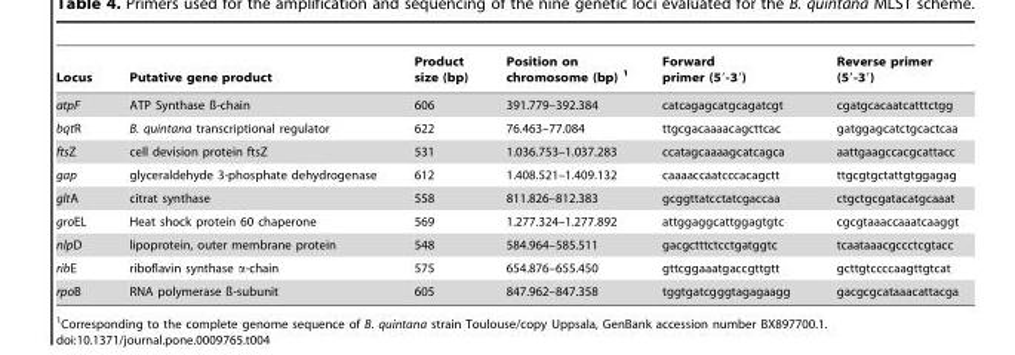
<table><thead><tr><td>Locus</td><td>Putative gene product</td><td>Product size (bp)</td><td>Position on chromosome (bp) 1</td><td>Forward primer (5′-3′)</td><td>Reverse primer (5′-3′)</td></tr></thead><tbody><tr><td>atpF</td><td>ATP Synthase ß-chain</td><td>606</td><td>391.779–392.384</td><td>catcagagcatgcagatcgt</td><td>cgatgcacaatcatttctgg</td></tr><tr><td>bqtR</td><td>B. quintana transcriptional regulator</td><td>622</td><td>76.463–77.084</td><td>ttgcgacaaaacagcttcac</td><td>gatggagcatctgcactcaa</td></tr><tr><td>ftsZ</td><td>cell devision protein ftsZ</td><td>531</td><td>1.036.753–1.037.283</td><td>ccatagcaaaagcatcagca</td><td>aattgaagccacgcattacc</td></tr><tr><td>gap</td><td>glyceraldehyde 3-phosphate dehydrogenase</td><td>612</td><td>1.408.521–1.409.132</td><td>caaaaccaatcccacagctt</td><td>ttgcgtgctattgtggagag</td></tr><tr><td>gltA</td><td>citrat synthase</td><td>558</td><td>811.826–812.383</td><td>gcggttatcctatcgaccaa</td><td>ctgctgcgatacatgcaaat</td></tr><tr><td>groEL</td><td>Heat shock protein 60 chaperone</td><td>569</td><td>1.277.324–1.277.892</td><td>attggaggcattggagtgtc</td><td>cgcgtaaaccaaatcaaggt</td></tr><tr><td>nlpD</td><td>lipoprotein, outer membrane protein</td><td>548</td><td>584.964–585.511</td><td>gacgctttctcctgatggtc</td><td>tcaataaacgccctcgtacc</td></tr><tr><td>ribE</td><td>riboflavin synthase α-chain</td><td>575</td><td>654.876–655.450</td><td>gttcggaaatgaccgttgtt</td><td>gcttgtccccaagttgtcat</td></tr><tr><td>rpoB</td><td>RNA polymerase ß-subunit</td><td>605</td><td>847.962–847.358</td><td>tggtgatcgggtagagaagg</td><td>gacgcgcataaacattacga</td></tr></tbody></table>